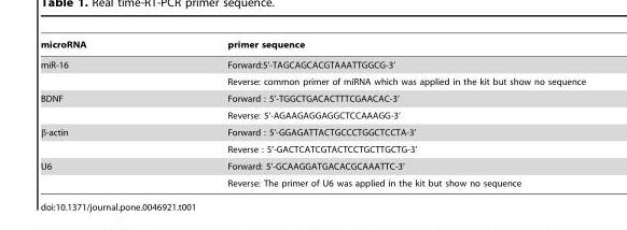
<table><thead><tr><td>microRNA</td><td>primer sequence</td></tr></thead><tbody><tr><td rowspan="2">miR-16</td><td>Forward:5’-TAGCAGCACGTAAATTGGCG-3’</td></tr><tr><td>Reverse: common primer of miRNA which was applied in the kit but show no sequence</td></tr><tr><td rowspan="2">BDNF</td><td>Forward : 5’-TGGCTGACACTTTCGAACAC-3’</td></tr><tr><td>Reverse: 5’-AGAAGAGGAGGCTCCAAAGG-3’</td></tr><tr><td rowspan="2">β-actin</td><td>Forward : 5’-GGAGATTACTGCCCTGGCTCCTA-3’</td></tr><tr><td>Reverse : 5’-GACTCATCGTACTCCTGCTTGCTG-3’</td></tr><tr><td rowspan="2">U6</td><td>Forward: 5’-GCAAGGATGACACGCAAATTC-3’</td></tr><tr><td>Reverse: The primer of U6 was applied in the kit but show no sequence</td></tr></tbody></table>